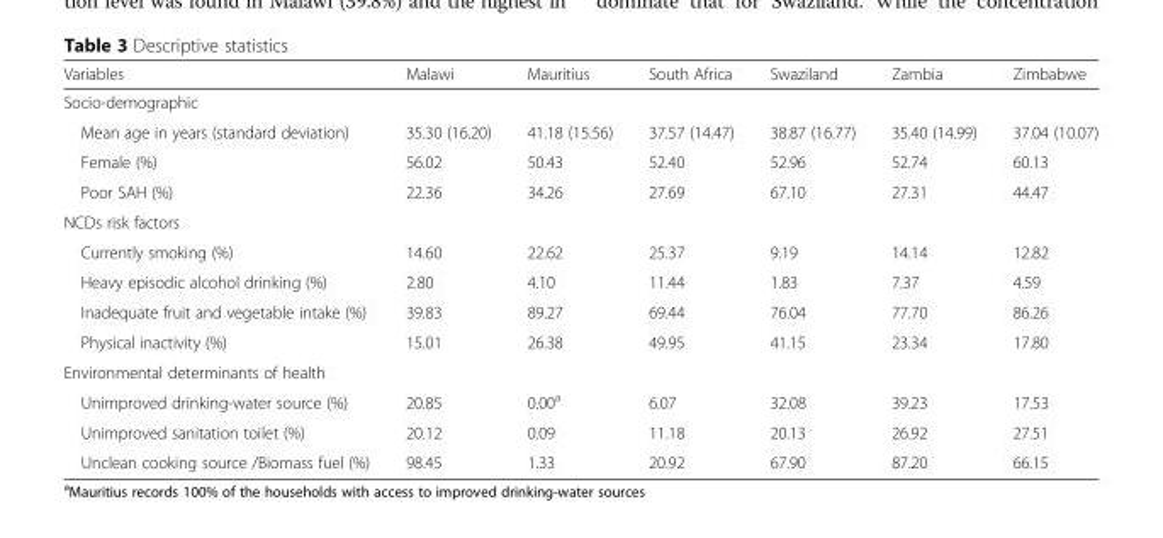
<table><thead><tr><td>Variables</td><td>Malawi</td><td>Mauritius</td><td>South Africa</td><td>Swaziland</td><td>Zambia</td><td>Zimbabwe</td></tr></thead><tbody><tr><td colspan="7">Socio-demographic</td></tr><tr><td>Mean age in years (standard deviation)</td><td>35.30 (16.20)</td><td>41.18 (15.56)</td><td>37.57 (14.47)</td><td>38.87 (16.77)</td><td>35.40 (14.99)</td><td>37.04 (10.07)</td></tr><tr><td>Female (%)</td><td>56.02</td><td>50.43</td><td>52.40</td><td>52.96</td><td>52.74</td><td>60.13</td></tr><tr><td>Poor SAH (%)</td><td>22.36</td><td>34.26</td><td>27.69</td><td>67.10</td><td>27.31</td><td>44.47</td></tr><tr><td colspan="7">NCDs risk factors</td></tr><tr><td>Currently smoking (%)</td><td>14.60</td><td>22.62</td><td>25.37</td><td>9.19</td><td>14.14</td><td>12.82</td></tr><tr><td>Heavy episodic alcohol drinking (%)</td><td>2.80</td><td>4.10</td><td>11.44</td><td>1.83</td><td>7.37</td><td>4.59</td></tr><tr><td>Inadequate fruit and vegetable intake (%)</td><td>39.83</td><td>89.27</td><td>69.44</td><td>76.04</td><td>77.70</td><td>86.26</td></tr><tr><td>Physical inactivity (%)</td><td>15.01</td><td>26.38</td><td>49.95</td><td>41.15</td><td>23.34</td><td>17.80</td></tr><tr><td colspan="7">Environmental determinants of health</td></tr><tr><td>Unimproved drinking-water source (%)</td><td>20.85</td><td>0.00<sup>a</sup></td><td>6.07</td><td>32.08</td><td>39.23</td><td>17.53</td></tr><tr><td>Unimproved sanitation toilet (%)</td><td>20.12</td><td>0.09</td><td>11.18</td><td>20.13</td><td>26.92</td><td>27.51</td></tr><tr><td>Unclean cooking source /Biomass fuel (%)</td><td>98.45</td><td>1.33</td><td>20.92</td><td>67.90</td><td>87.20</td><td>66.15</td></tr></tbody></table>